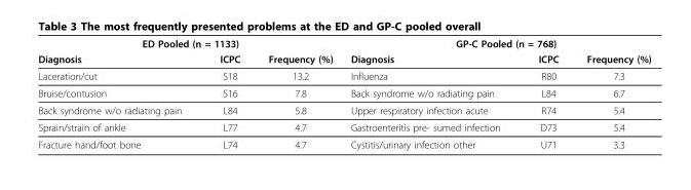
<table><thead><tr><td colspan="3">ED Pooled (n = 1133)</td><td colspan="3">GP-C Pooled (n = 768)</td></tr><tr><td>Diagnosis</td><td>ICPC</td><td>Frequency (%)</td><td>Diagnosis</td><td>ICPC</td><td>Frequency (%)</td></tr></thead><tbody><tr><td>Laceration/cut</td><td>S18</td><td>13.2</td><td>Influenza</td><td>R80</td><td>7.3</td></tr><tr><td>Bruise/contusion</td><td>S16</td><td>7.8</td><td>Back syndrome w/o radiating pain</td><td>L84</td><td>6.7</td></tr><tr><td>Back syndrome w/o radiating pain</td><td>L84</td><td>5.8</td><td>Upper respiratory infection acute</td><td>R74</td><td>5.4</td></tr><tr><td>Sprain/strain of ankle</td><td>L77</td><td>4.7</td><td>Gastroenteritis pre- sumed infection</td><td>D73</td><td>5.4</td></tr><tr><td>Fracture hand/foot bone</td><td>L74</td><td>4.7</td><td>Cystitis/urinary infection other</td><td>U71</td><td>3.3</td></tr></tbody></table>